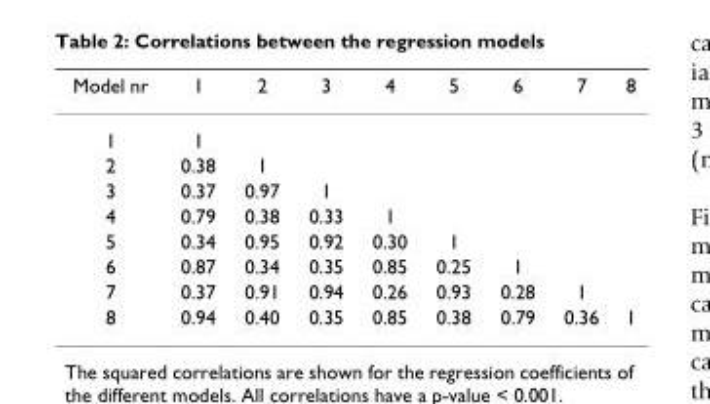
<table><thead><tr><td>Model nr</td><td>1</td><td>2</td><td>3</td><td>4</td><td>5</td><td>6</td><td>7</td><td>8</td></tr></thead><tbody><tr><td>1</td><td>1</td><td></td><td></td><td></td><td></td><td></td><td></td><td></td></tr><tr><td>2</td><td>0.38</td><td>1</td><td></td><td></td><td></td><td></td><td></td><td></td></tr><tr><td>3</td><td>0.37</td><td>0.97</td><td>1</td><td></td><td></td><td></td><td></td><td></td></tr><tr><td>4</td><td>0.79</td><td>0.38</td><td>0.33</td><td>1</td><td></td><td></td><td></td><td></td></tr><tr><td>5</td><td>0.34</td><td>0.95</td><td>0.92</td><td>0.30</td><td>1</td><td></td><td></td><td></td></tr><tr><td>6</td><td>0.87</td><td>0.34</td><td>0.35</td><td>0.85</td><td>0.25</td><td>1</td><td></td><td></td></tr><tr><td>7</td><td>0.37</td><td>0.91</td><td>0.94</td><td>0.26</td><td>0.93</td><td>0.28</td><td>1</td><td></td></tr><tr><td>8</td><td>0.94</td><td>0.40</td><td>0.35</td><td>0.85</td><td>0.38</td><td>0.79</td><td>0.36</td><td>1</td></tr></tbody></table>